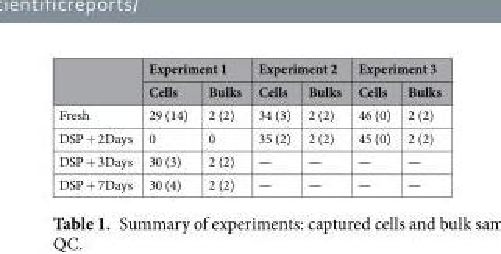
<table><thead><tr><td rowspan="2"></td><td colspan="2">Experiment 1</td><td colspan="2">Experiment 2</td><td colspan="2">Experiment 3</td></tr><tr><td>Cells</td><td>Bulks</td><td>Cells</td><td>Bulks</td><td>Cells</td><td>Bulks</td></tr></thead><tbody><tr><td>Fresh</td><td>29 (14)</td><td>2 (2)</td><td>34 (3)</td><td>2 (2)</td><td>46 (0)</td><td>2 (2)</td></tr><tr><td>DSP + 2Days</td><td>0</td><td>0</td><td>35 (2)</td><td>2 (2)</td><td>45 (0)</td><td>2 (2)</td></tr><tr><td>DSP + 3Days</td><td>30 (3)</td><td>2 (2)</td><td>—</td><td>—</td><td>—</td><td>—</td></tr><tr><td>DSP + 7Days</td><td>30 (4)</td><td>2 (2)</td><td>—</td><td>—</td><td>—</td><td>—</td></tr></tbody></table>